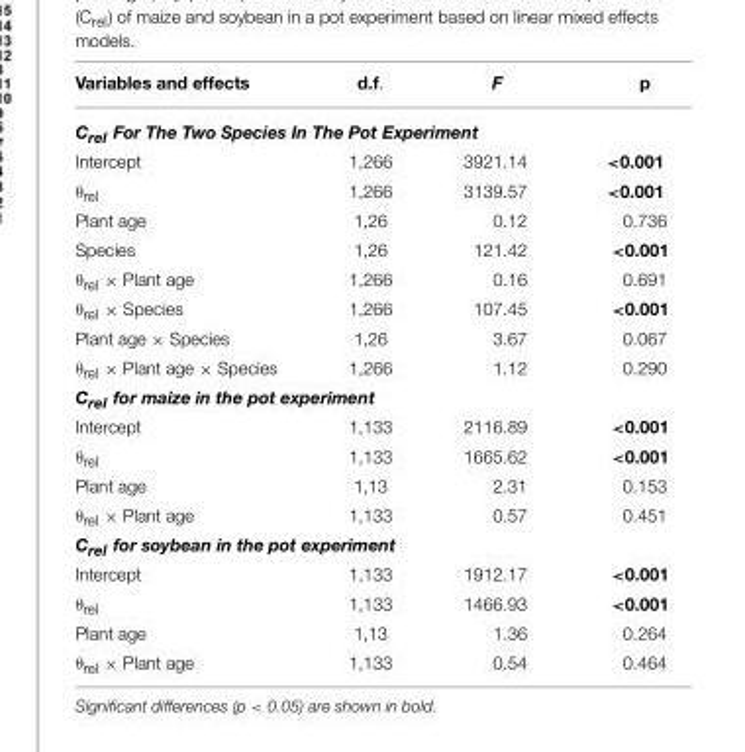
<table><thead><tr><td>Variables and effects</td><td>d.f.</td><td>F</td><td>p</td></tr></thead><tbody><tr><td colspan="4">Crel For The Two Species In The Pot Experiment</td></tr><tr><td>Intercept</td><td>1,266</td><td>3921.14</td><td>&lt;0.001</td></tr><tr><td>θ<sub>rel</sub></td><td>1,266</td><td>3139.57</td><td>&lt;0.001</td></tr><tr><td>Plant age</td><td>1,26</td><td>0.12</td><td>0.736</td></tr><tr><td>Species</td><td>1,26</td><td>121.42</td><td>&lt;0.001</td></tr><tr><td>θ<sub>rel</sub> × Plant age</td><td>1,266</td><td>0.16</td><td>0.691</td></tr><tr><td>θ<sub>rel</sub> × Species</td><td>1,266</td><td>107.45</td><td>&lt;0.001</td></tr><tr><td>Plant age × Species</td><td>1,26</td><td>3.67</td><td>0.067</td></tr><tr><td>θ<sub>rel</sub> × Plant age × Species</td><td>1,266</td><td>1.12</td><td>0.290</td></tr><tr><td colspan="4">Crel for maize in the pot experiment</td></tr><tr><td>Intercept</td><td>1,133</td><td>2116.89</td><td>&lt;0.001</td></tr><tr><td>θ<sub>rel</sub></td><td>1,133</td><td>1665.62</td><td>&lt;0.001</td></tr><tr><td>Plant age</td><td>1,13</td><td>2.31</td><td>0.153</td></tr><tr><td>θ<sub>rel</sub> × Plant age</td><td>1,133</td><td>0.57</td><td>0.451</td></tr><tr><td colspan="4">Crel for soybean in the pot experiment</td></tr><tr><td>Intercept</td><td>1,133</td><td>1912.17</td><td>&lt;0.001</td></tr><tr><td>θ<sub>rel</sub></td><td>1,133</td><td>1466.93</td><td>&lt;0.001</td></tr><tr><td>Plant age</td><td>1,13</td><td>1.36</td><td>0.264</td></tr><tr><td>θ<sub>rel</sub> × Plant age</td><td>1,133</td><td>0.54</td><td>0.464</td></tr></tbody></table>